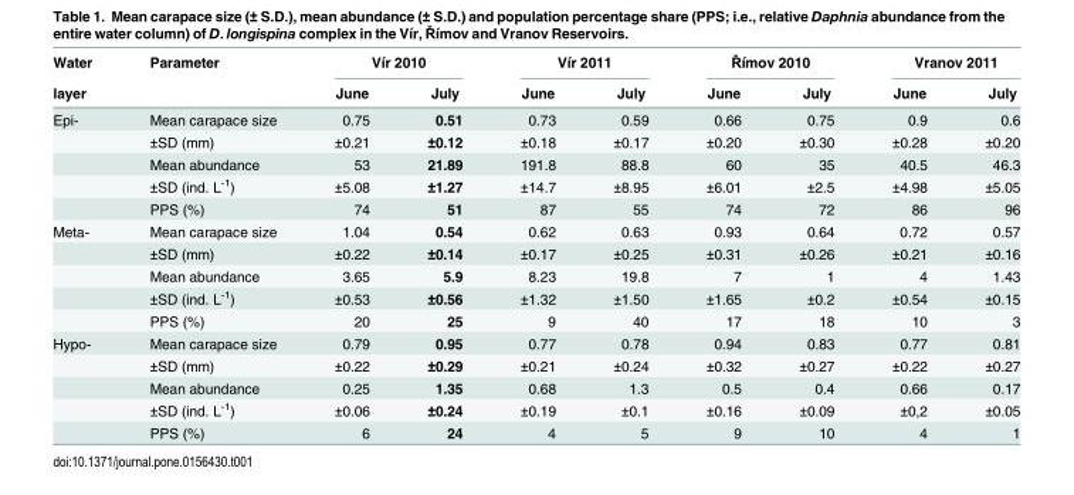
<table><thead><tr><td rowspan="2">Water layer</td><td rowspan="2">Parameter</td><td colspan="2">Vír 2010</td><td colspan="2">Vír 2011</td><td colspan="2">Římov 2010</td><td colspan="2">Vranov 2011</td></tr><tr><td>June</td><td>July</td><td>June</td><td>July</td><td>June</td><td>July</td><td>June</td><td>July</td></tr></thead><tbody><tr><td rowspan="5">Epi-</td><td>Mean carapace size</td><td>0.75</td><td>0.51</td><td>0.73</td><td>0.59</td><td>0.66</td><td>0.75</td><td>0.9</td><td>0.6</td></tr><tr><td>±SD (mm)</td><td>±0.21</td><td>±0.12</td><td>±0.18</td><td>±0.17</td><td>±0.20</td><td>±0.30</td><td>±0.28</td><td>±0.20</td></tr><tr><td>Mean abundance</td><td>53</td><td>21.89</td><td>191.8</td><td>88.8</td><td>60</td><td>35</td><td>40.5</td><td>46.3</td></tr><tr><td>±SD (ind. L<sup>-1</sup>)</td><td>±5.08</td><td>±1.27</td><td>±14.7</td><td>±8.95</td><td>±6.01</td><td>±2.5</td><td>±4.98</td><td>±5.05</td></tr><tr><td>PPS (%)</td><td>74</td><td>51</td><td>87</td><td>55</td><td>74</td><td>72</td><td>86</td><td>96</td></tr><tr><td rowspan="5">Meta-</td><td>Mean carapace size</td><td>1.04</td><td>0.54</td><td>0.62</td><td>0.63</td><td>0.93</td><td>0.64</td><td>0.72</td><td>0.57</td></tr><tr><td>±SD (mm)</td><td>±0.22</td><td>±0.14</td><td>±0.17</td><td>±0.25</td><td>±0.31</td><td>±0.26</td><td>±0.21</td><td>±0.16</td></tr><tr><td>Mean abundance</td><td>3.65</td><td>5.9</td><td>8.23</td><td>19.8</td><td>7</td><td>1</td><td>4</td><td>1.43</td></tr><tr><td>±SD (ind. L<sup>-1</sup>)</td><td>±0.53</td><td>±0.56</td><td>±1.32</td><td>±1.50</td><td>±1.65</td><td>±0.2</td><td>±0.54</td><td>±0.15</td></tr><tr><td>PPS (%)</td><td>20</td><td>25</td><td>9</td><td>40</td><td>17</td><td>18</td><td>10</td><td>3</td></tr><tr><td rowspan="5">Hypo-</td><td>Mean carapace size</td><td>0.79</td><td>0.95</td><td>0.77</td><td>0.78</td><td>0.94</td><td>0.83</td><td>0.77</td><td>0.81</td></tr><tr><td>±SD (mm)</td><td>±0.22</td><td>±0.29</td><td>±0.21</td><td>±0.24</td><td>±0.32</td><td>±0.27</td><td>±0.22</td><td>±0.27</td></tr><tr><td>Mean abundance</td><td>0.25</td><td>1.35</td><td>0.68</td><td>1.3</td><td>0.5</td><td>0.4</td><td>0.66</td><td>0.17</td></tr><tr><td>±SD (ind. L<sup>-1</sup>)</td><td>±0.06</td><td>±0.24</td><td>±0.19</td><td>±0.1</td><td>±0.16</td><td>±0.09</td><td>±0,2</td><td>±0.05</td></tr><tr><td>PPS (%)</td><td>6</td><td>24</td><td>4</td><td>5</td><td>9</td><td>10</td><td>4</td><td>1</td></tr></tbody></table>